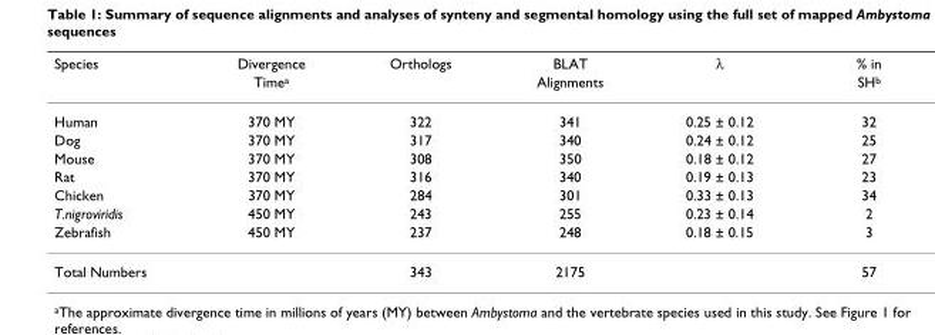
<table><thead><tr><td rowspan="2">Species</td><td rowspan="2">Divergence Timea</td><td rowspan="2">Orthologs</td><td rowspan="2">BLAT Alignments</td><td rowspan="2">λ</td><td rowspan="2">% in SHb</td></tr><tr></tr></thead><tbody><tr><td>Human</td><td>370 MY</td><td>322</td><td>341</td><td>0.25 ± 0.12</td><td>32</td></tr><tr><td>Dog</td><td>370 MY</td><td>317</td><td>340</td><td>0.24 ± 0.12</td><td>25</td></tr><tr><td>Mouse</td><td>370 MY</td><td>308</td><td>350</td><td>0.18 ± 0.12</td><td>27</td></tr><tr><td>Rat</td><td>370 MY</td><td>316</td><td>340</td><td>0.19 ± 0.13</td><td>23</td></tr><tr><td>Chicken</td><td>370 MY</td><td>284</td><td>301</td><td>0.33 ± 0.13</td><td>34</td></tr><tr><td>T.nigroviridis</td><td>450 MY</td><td>243</td><td>255</td><td>0.23 ± 0.14</td><td>2</td></tr><tr><td>Zebrafish</td><td>450 MY</td><td>237</td><td>248</td><td>0.18 ± 0.15</td><td>3</td></tr><tr><td>Total Numbers</td><td></td><td>343</td><td>2175</td><td></td><td>57</td></tr></tbody></table>